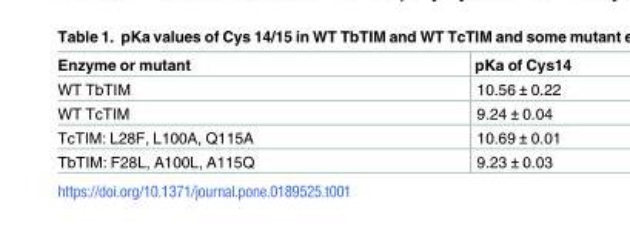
<table><thead><tr><td>Enzyme or mutant</td><td>pKa of Cys14</td></tr></thead><tbody><tr><td>WT TbTIM</td><td>10.56 ± 0.22</td></tr><tr><td>WT TcTIM</td><td>9.24 ± 0.04</td></tr><tr><td>TcTIM: L28F, L100A, Q115A</td><td>10.69 ± 0.01</td></tr><tr><td>TbTIM: F28L, A100L, A115Q</td><td>9.23 ± 0.03</td></tr></tbody></table>